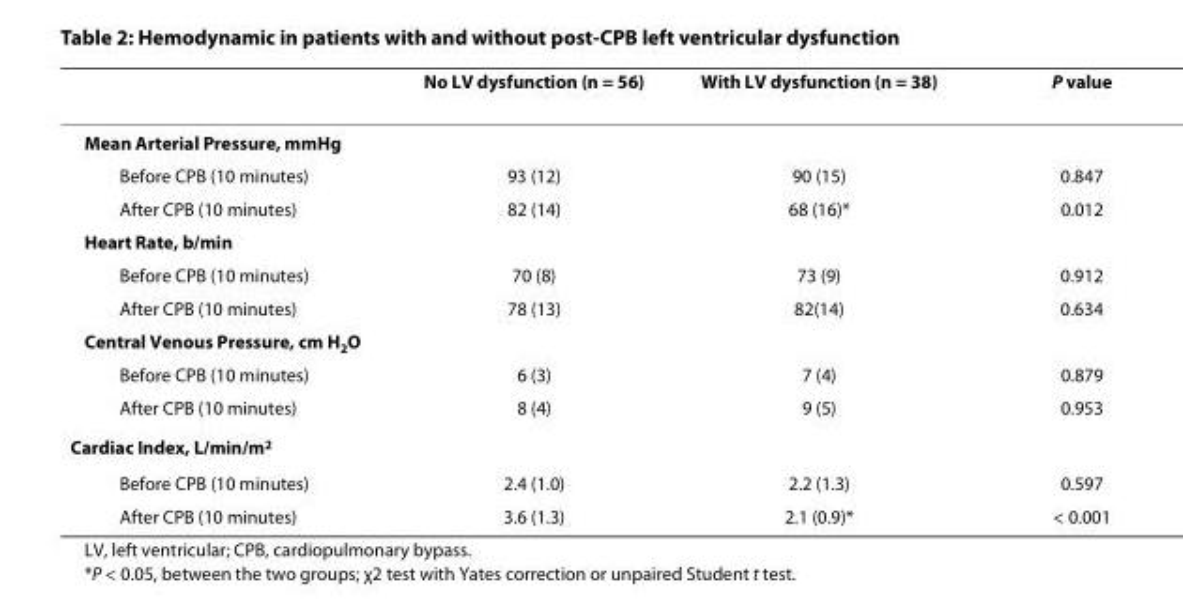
<table><thead><tr><td></td><td>No LV dysfunction (n = 56)</td><td>With LV dysfunction (n = 38)</td><td>P value</td></tr></thead><tbody><tr><td colspan="4">Mean Arterial Pressure, mmHg</td></tr><tr><td>Before CPB (10 minutes)</td><td>93 (12)</td><td>90 (15)</td><td>0.847</td></tr><tr><td>After CPB (10 minutes)</td><td>82 (14)</td><td>68 (16)*</td><td>0.012</td></tr><tr><td colspan="4">Heart Rate, b/min</td></tr><tr><td>Before CPB (10 minutes)</td><td>70 (8)</td><td>73 (9)</td><td>0.912</td></tr><tr><td>After CPB (10 minutes)</td><td>78 (13)</td><td>82(14)</td><td>0.634</td></tr><tr><td colspan="4">Central Venous Pressure, cm H<sub>2</sub>O</td></tr><tr><td>Before CPB (10 minutes)</td><td>6 (3)</td><td>7 (4)</td><td>0.879</td></tr><tr><td>After CPB (10 minutes)</td><td>8 (4)</td><td>9 (5)</td><td>0.953</td></tr><tr><td colspan="4">Cardiac Index, L/min/m<sup>2</sup></td></tr><tr><td>Before CPB (10 minutes)</td><td>2.4 (1.0)</td><td>2.2 (1.3)</td><td>0.597</td></tr><tr><td>After CPB (10 minutes)</td><td>3.6 (1.3)</td><td>2.1 (0.9)*</td><td>&lt; 0.001</td></tr></tbody></table>